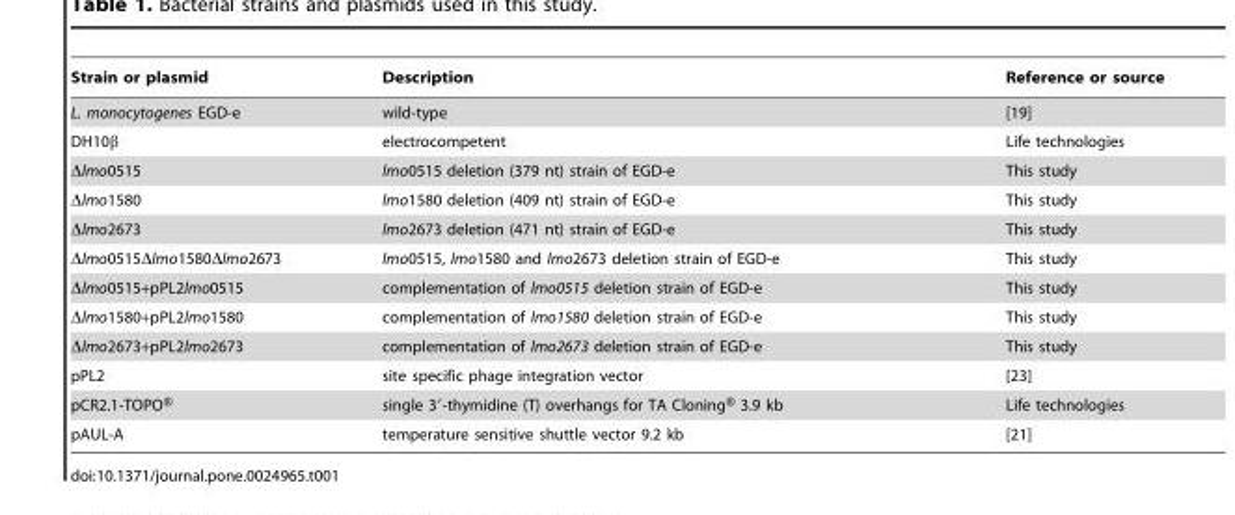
<table><thead><tr><td>Strain or plasmid</td><td>Description</td><td>Reference or source</td></tr></thead><tbody><tr><td>L. monocytogenes EGD-e</td><td>wild-type</td><td>[19]</td></tr><tr><td>DH10β</td><td>electrocompetent</td><td>Life technologies</td></tr><tr><td>Δlmo0515</td><td>lmo0515 deletion (379 nt) strain of EGD-e</td><td>This study</td></tr><tr><td>Δlmo1580</td><td>lmo1580 deletion (409 nt) strain of EGD-e</td><td>This study</td></tr><tr><td>Δlmo2673</td><td>lmo2673 deletion (471 nt) strain of EGD-e</td><td>This study</td></tr><tr><td>Δlmo0515Δlmo1580Δlmo2673</td><td>lmo0515, lmo1580 and lmo2673 deletion strain of EGD-e</td><td>This study</td></tr><tr><td>Δlmo0515+pPL2lmo0515</td><td>complementation of lmo0515 deletion strain of EGD-e</td><td>This study</td></tr><tr><td>Δlmo1580+pPL2lmo1580</td><td>complementation of lmo1580 deletion strain of EGD-e</td><td>This study</td></tr><tr><td>Δlmo2673+pPL2lmo2673</td><td>complementation of lmo2673 deletion strain of EGD-e</td><td>This study</td></tr><tr><td>pPL2</td><td>site specific phage integration vector</td><td>[23]</td></tr><tr><td>pCR2.1-TOPO®</td><td>single 3′-thymidine (T) overhangs for TA Cloning® 3.9 kb</td><td>Life technologies</td></tr><tr><td>pAUL-A</td><td>temperature sensitive shuttle vector 9.2 kb</td><td>[21]</td></tr></tbody></table>